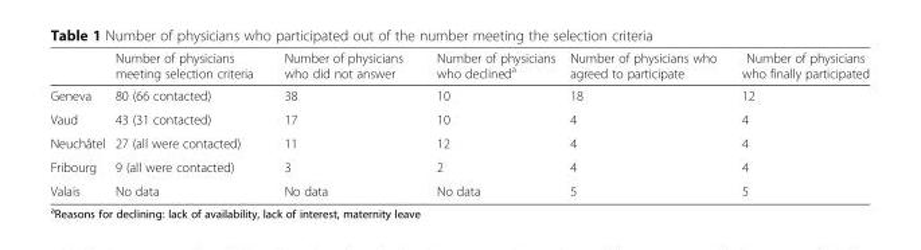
<table><thead><tr><td></td><td>Number of physicians meeting selection criteria</td><td>Number of physicians who did not answer</td><td>Number of physicians who declined<sup>a</sup></td><td>Number of physicians who agreed to participate</td><td>Number of physicians who finally participated</td></tr></thead><tbody><tr><td>Geneva</td><td>80 (66 contacted)</td><td>38</td><td>10</td><td>18</td><td>12</td></tr><tr><td>Vaud</td><td>43 (31 contacted)</td><td>17</td><td>10</td><td>4</td><td>4</td></tr><tr><td>Neuchâtel</td><td>27 (all were contacted)</td><td>11</td><td>12</td><td>4</td><td>4</td></tr><tr><td>Fribourg</td><td>9 (all were contacted)</td><td>3</td><td>2</td><td>4</td><td>4</td></tr><tr><td>Valais</td><td>No data</td><td>No data</td><td>No data</td><td>5</td><td>5</td></tr></tbody></table>